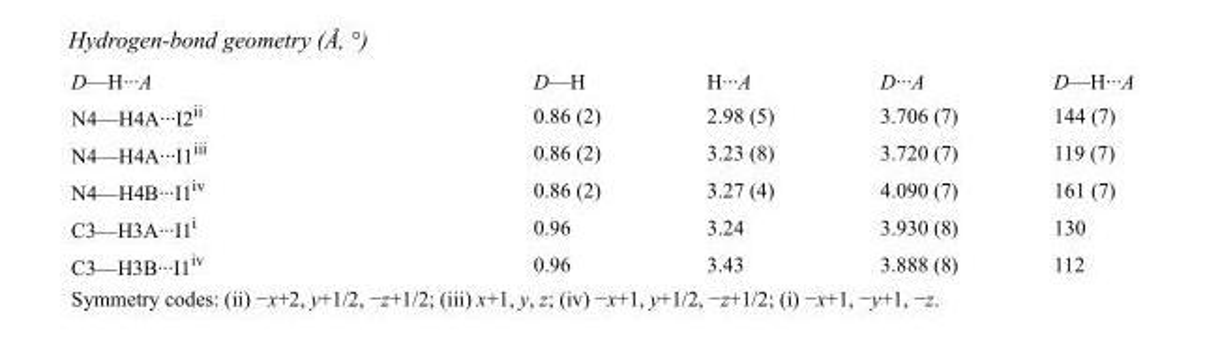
<table><tbody><tr><td>D—H···A</td><td>D—H</td><td>H···A</td><td>D···A</td><td>D—H···A</td></tr><tr><td>N4—H4A···I2<sup>ii</sup></td><td>0.86 (2)</td><td>2.98 (5)</td><td>3.706 (7)</td><td>144 (7)</td></tr><tr><td>N4—H4A···I1<sup>iii</sup></td><td>0.86 (2)</td><td>3.23 (8)</td><td>3.720 (7)</td><td>119 (7)</td></tr><tr><td>N4—H4B···I1<sup>iv</sup></td><td>0.86 (2)</td><td>3.27 (4)</td><td>4.090 (7)</td><td>161 (7)</td></tr><tr><td>C3—H3A···I1<sup>i</sup></td><td>0.96</td><td>3.24</td><td>3.930 (8)</td><td>130</td></tr><tr><td>C3—H3B···I1<sup>iv</sup></td><td>0.96</td><td>3.43</td><td>3.888 (8)</td><td>112</td></tr></tbody></table>